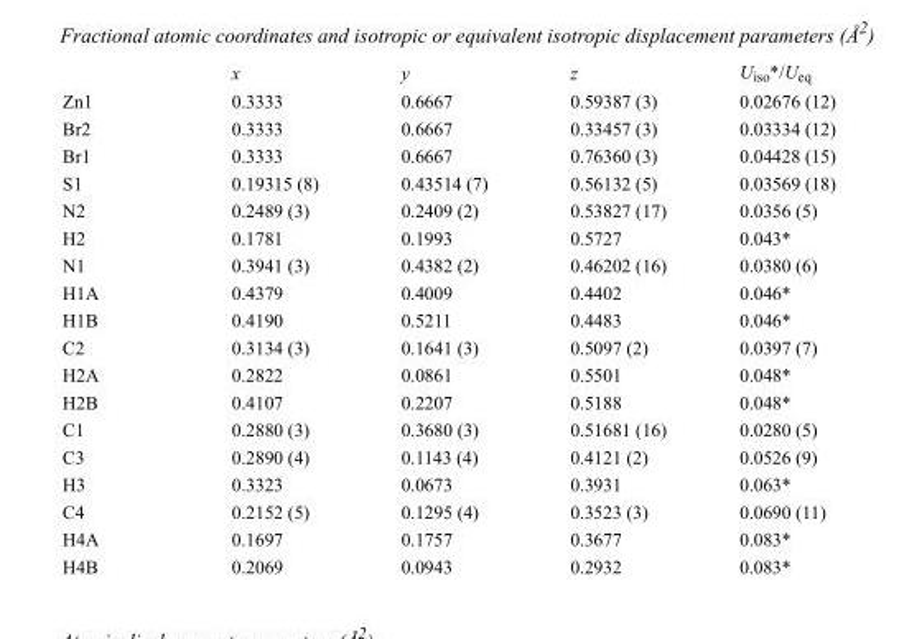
<table><thead><tr><td></td><td>x</td><td>y</td><td>z</td><td>U<sub>iso</sub>*/U<sub>eq</sub></td></tr></thead><tbody><tr><td>Zn1</td><td>0.3333</td><td>0.6667</td><td>0.59387 (3)</td><td>0.02676 (12)</td></tr><tr><td>Br2</td><td>0.3333</td><td>0.6667</td><td>0.33457 (3)</td><td>0.03334 (12)</td></tr><tr><td>Br1</td><td>0.3333</td><td>0.6667</td><td>0.76360 (3)</td><td>0.04428 (15)</td></tr><tr><td>S1</td><td>0.19315 (8)</td><td>0.43514 (7)</td><td>0.56132 (5)</td><td>0.03569 (18)</td></tr><tr><td>N2</td><td>0.2489 (3)</td><td>0.2409 (2)</td><td>0.53827 (17)</td><td>0.0356 (5)</td></tr><tr><td>H2</td><td>0.1781</td><td>0.1993</td><td>0.5727</td><td>0.043*</td></tr><tr><td>N1</td><td>0.3941 (3)</td><td>0.4382 (2)</td><td>0.46202 (16)</td><td>0.0380 (6)</td></tr><tr><td>H1A</td><td>0.4379</td><td>0.4009</td><td>0.4402</td><td>0.046*</td></tr><tr><td>H1B</td><td>0.4190</td><td>0.5211</td><td>0.4483</td><td>0.046*</td></tr><tr><td>C2</td><td>0.3134 (3)</td><td>0.1641 (3)</td><td>0.5097 (2)</td><td>0.0397 (7)</td></tr><tr><td>H2A</td><td>0.2822</td><td>0.0861</td><td>0.5501</td><td>0.048*</td></tr><tr><td>H2B</td><td>0.4107</td><td>0.2207</td><td>0.5188</td><td>0.048*</td></tr><tr><td>C1</td><td>0.2880 (3)</td><td>0.3680 (3)</td><td>0.51681 (16)</td><td>0.0280 (5)</td></tr><tr><td>C3</td><td>0.2890 (4)</td><td>0.1143 (4)</td><td>0.4121 (2)</td><td>0.0526 (9)</td></tr><tr><td>H3</td><td>0.3323</td><td>0.0673</td><td>0.3931</td><td>0.063*</td></tr><tr><td>C4</td><td>0.2152 (5)</td><td>0.1295 (4)</td><td>0.3523 (3)</td><td>0.0690 (11)</td></tr><tr><td>H4A</td><td>0.1697</td><td>0.1757</td><td>0.3677</td><td>0.083*</td></tr><tr><td>H4B</td><td>0.2069</td><td>0.0943</td><td>0.2932</td><td>0.083*</td></tr></tbody></table>